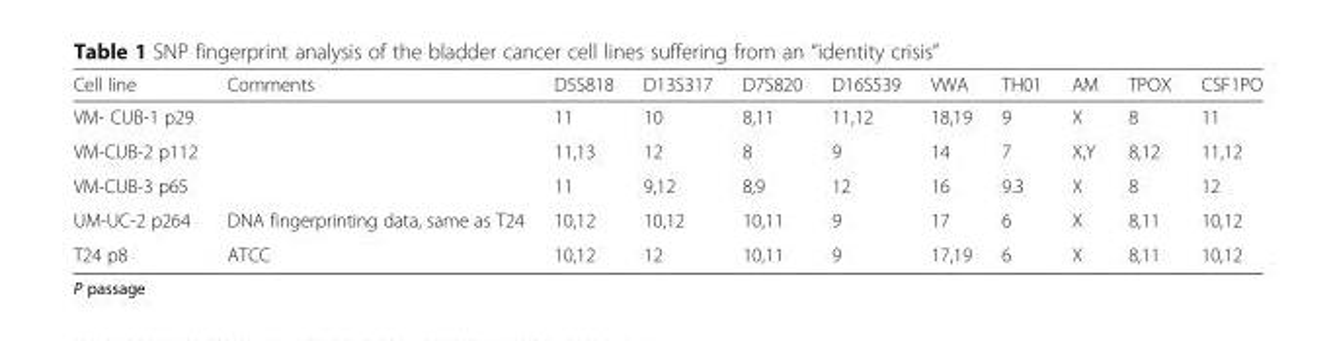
<table><thead><tr><td>Cell line</td><td>Comments</td><td>D5S818</td><td>D13S317</td><td>D7S820</td><td>D16S539</td><td>VWA</td><td>TH01</td><td>AM</td><td>TPOX</td><td>CSF1PO</td></tr></thead><tbody><tr><td>VM- CUB-1 p29</td><td></td><td>11</td><td>10</td><td>8,11</td><td>11,12</td><td>18,19</td><td>9</td><td>X</td><td>8</td><td>11</td></tr><tr><td>VM-CUB-2 p112</td><td></td><td>11,13</td><td>12</td><td>8</td><td>9</td><td>14</td><td>7</td><td>X,Y</td><td>8,12</td><td>11,12</td></tr><tr><td>VM-CUB-3 p65</td><td></td><td>11</td><td>9,12</td><td>8,9</td><td>12</td><td>16</td><td>9.3</td><td>X</td><td>8</td><td>12</td></tr><tr><td>UM-UC-2 p264</td><td>DNA fingerprinting data, same as T24</td><td>10,12</td><td>10,12</td><td>10,11</td><td>9</td><td>17</td><td>6</td><td>X</td><td>8,11</td><td>10,12</td></tr><tr><td>T24 p8</td><td>ATCC</td><td>10,12</td><td>12</td><td>10,11</td><td>9</td><td>17,19</td><td>6</td><td>X</td><td>8,11</td><td>10,12</td></tr></tbody></table>